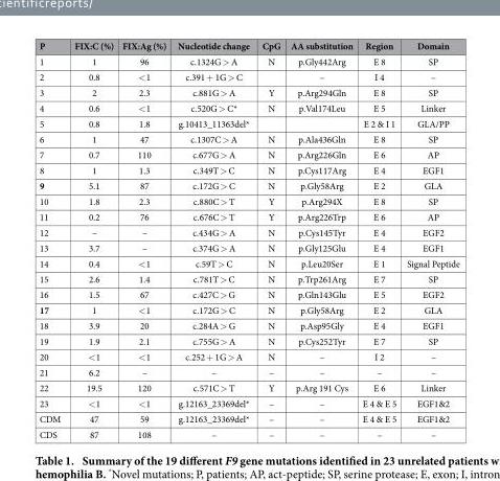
<table><thead><tr><td>P</td><td>FIX:C (%)</td><td>FIX:Ag (%)</td><td>Nucleotide change</td><td>CpG</td><td>AA substitution</td><td>Region</td><td>Domain</td></tr></thead><tbody><tr><td>1</td><td>1</td><td>96</td><td>c.1324G &gt; A</td><td>N</td><td>p.Gly442Arg</td><td>E 8</td><td>SP</td></tr><tr><td>2</td><td>0.8</td><td>&lt; 1</td><td>c.391 + 1G &gt; C</td><td></td><td>–</td><td>I 4</td><td>–</td></tr><tr><td>3</td><td>2</td><td>2.3</td><td>c.881G &gt; A</td><td>Y</td><td>p.Arg294Gln</td><td>E 8</td><td>SP</td></tr><tr><td>4</td><td>0.6</td><td>&lt; 1</td><td>c.520G &gt; C*</td><td>N</td><td>p.Val174Leu</td><td>E 5</td><td>Linker</td></tr><tr><td>5</td><td>0.8</td><td>1.8</td><td>g.10413_11363del*</td><td></td><td></td><td>E 2 &amp; I 1</td><td>GLA/PP</td></tr><tr><td>6</td><td>1</td><td>47</td><td>c.1307C &gt; A</td><td>N</td><td>p.Ala436Gln</td><td>E 8</td><td>SP</td></tr><tr><td>7</td><td>0.7</td><td>110</td><td>c.677G &gt; A</td><td>N</td><td>p.Arg226Gln</td><td>E 6</td><td>AP</td></tr><tr><td>8</td><td>1</td><td>1.3</td><td>c.349T &gt; C</td><td>N</td><td>p.Cys117Arg</td><td>E 4</td><td>EGF1</td></tr><tr><td>9</td><td>5.1</td><td>87</td><td>c.172G &gt; C</td><td>N</td><td>p.Gly58Arg</td><td>E 2</td><td>GLA</td></tr><tr><td>10</td><td>1.8</td><td>2.3</td><td>c.880C &gt; T</td><td>Y</td><td>p.Arg294X</td><td>E 8</td><td>SP</td></tr><tr><td>11</td><td>0.2</td><td>76</td><td>c.676C &gt; T</td><td>Y</td><td>p.Arg226Trp</td><td>E 6</td><td>AP</td></tr><tr><td>12</td><td>–</td><td>–</td><td>c.434G &gt; A</td><td>N</td><td>p.Cys145Tyr</td><td>E 4</td><td>EGF2</td></tr><tr><td>13</td><td>3.7</td><td>–</td><td>c.374G &gt; A</td><td>N</td><td>p.Gly125Glu</td><td>E 4</td><td>EGF1</td></tr><tr><td>14</td><td>0.4</td><td>&lt; 1</td><td>c.59T &gt; C</td><td>N</td><td>p.Leu20Ser</td><td>E 1</td><td>Signal Peptide</td></tr><tr><td>15</td><td>2.6</td><td>1.4</td><td>c.781T &gt; C</td><td>N</td><td>p.Trp261Arg</td><td>E 7</td><td>SP</td></tr><tr><td>16</td><td>1.5</td><td>67</td><td>c.427C &gt; G</td><td>N</td><td>p.Gln143Glu</td><td>E 5</td><td>EGF2</td></tr><tr><td>17</td><td>1</td><td>&lt; 1</td><td>c.172G &gt; C</td><td>N</td><td>p.Gly58Arg</td><td>E 2</td><td>GLA</td></tr><tr><td>18</td><td>3.9</td><td>20</td><td>c.284A &gt; G</td><td>N</td><td>p.Asp95Gly</td><td>E 4</td><td>EGF1</td></tr><tr><td>19</td><td>1.9</td><td>2.1</td><td>c.755G &gt; A</td><td>N</td><td>p.Cys252Tyr</td><td>E 7</td><td>SP</td></tr><tr><td>20</td><td>&lt; 1</td><td>&lt; 1</td><td>c.252 + 1G &gt; A</td><td>N</td><td>–</td><td>I 2</td><td>–</td></tr><tr><td>21</td><td>6.2</td><td>–</td><td>–</td><td>–</td><td>–</td><td>–</td><td>–</td></tr><tr><td>22</td><td>19.5</td><td>120</td><td>c.571C &gt; T</td><td>Y</td><td>p.Arg 191 Cys</td><td>E 6</td><td>Linker</td></tr><tr><td>23</td><td>&lt; 1</td><td>&lt; 1</td><td>g.12163_23369del*</td><td>–</td><td>–</td><td>E 4 &amp; E 5</td><td>EGF1&amp;2</td></tr><tr><td>CDM</td><td>47</td><td>59</td><td>g.12163_23369del*</td><td>–</td><td>–</td><td>E 4 &amp; E 5</td><td>EGF1&amp;2</td></tr><tr><td>CDS</td><td>87</td><td>108</td><td>–</td><td>–</td><td>–</td><td>–</td><td>–</td></tr></tbody></table>